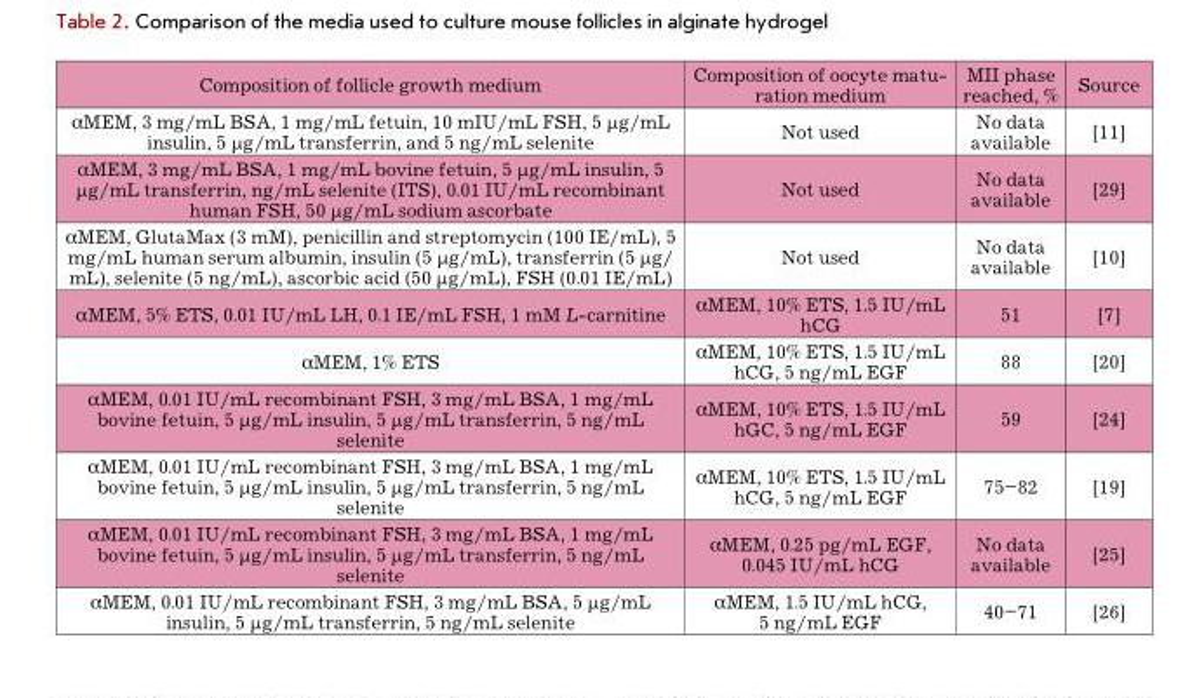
<table><thead><tr><td>Composition of follicle growth medium</td><td>Composition of oocyte matu- ration medium</td><td>MII phase reached, %</td><td>Source</td></tr></thead><tbody><tr><td>αMEM, 3 mg/mL BSA, 1 mg/mL fetuin, 10 mIU/mL FSH, 5 μg/mL insulin, 5 μg/mL transferrin, and 5 ng/mL selenite</td><td>Not used</td><td>No data available</td><td>[11]</td></tr><tr><td>αMEM, 3 mg/mL BSA, 1 mg/mL bovine fetuin, 5 μg/mL insulin, 5 μg/mL transferrin, ng/mL selenite (ITS), 0.01 IU/mL recombinant human FSH, 50 μg/mL sodium ascorbate</td><td>Not used</td><td>No data available</td><td>[29]</td></tr><tr><td>αMEM, GlutaMax (3 mM), penicillin and streptomycin (100 IE/mL), 5 mg/mL human serum albumin, insulin (5 μg/mL), transferrin (5 μg/ mL), selenite (5 ng/mL), ascorbic acid (50 μg/mL), FSH (0.01 IE/mL)</td><td>Not used</td><td>No data available</td><td>[10]</td></tr><tr><td>αMEM, 5% ETS, 0.01 IU/mL LH, 0.1 IE/mL FSH, 1 mM L-carnitine</td><td>αMEM, 10% ETS, 1.5 IU/mL hCG</td><td>51</td><td>[7]</td></tr><tr><td>αMEM, 1% ETS</td><td>αMEM, 10% ETS, 1.5 IU/mL hCG, 5 ng/mL EGF</td><td>88</td><td>[20]</td></tr><tr><td>αMEM, 0.01 IU/mL recombinant FSH, 3 mg/mL BSA, 1 mg/mL bovine fetuin, 5 μg/mL insulin, 5 μg/mL transferrin, 5 ng/mL selenite</td><td>αMEM, 10% ETS, 1.5 IU/mL hGC, 5 ng/mL EGF</td><td>59</td><td>[24]</td></tr><tr><td>αMEM, 0.01 IU/mL recombinant FSH, 3 mg/mL BSA, 1 mg/mL bovine fetuin, 5 μg/mL insulin, 5 μg/mL transferrin, 5 ng/mL selenite</td><td>αMEM, 10% ETS, 1.5 IU/mL hCG, 5 ng/mL EGF</td><td>75–82</td><td>[19]</td></tr><tr><td>αMEM, 0.01 IU/mL recombinant FSH, 3 mg/mL BSA, 1 mg/mL bovine fetuin, 5 μg/mL insulin, 5 μg/mL transferrin, 5 ng/mL selenite</td><td>αMEM, 0.25 pg/mL EGF, 0.045 IU/mL hCG</td><td>No data available</td><td>[25]</td></tr><tr><td>αMEM, 0.01 IU/mL recombinant FSH, 3 mg/mL BSA, 5 μg/mL insulin, 5 μg/mL transferrin, 5 ng/mL selenite</td><td>αMEM, 1.5 IU/mL hCG, 5 ng/mL EGF</td><td>40–71</td><td>[26]</td></tr></tbody></table>